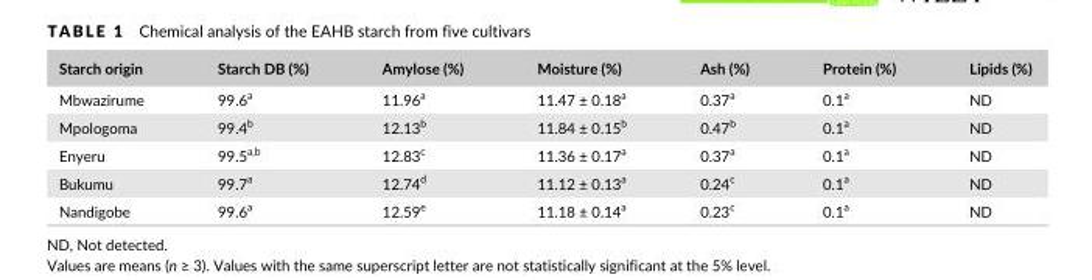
<table><thead><tr><td>Starch origin</td><td>Starch DB (%)</td><td>Amylose (%)</td><td>Moisture (%)</td><td>Ash (%)</td><td>Protein (%)</td><td>Lipids (%)</td></tr></thead><tbody><tr><td>Mbwazirume</td><td>99.6<sup>a</sup></td><td>11.96<sup>a</sup></td><td>11.47 ± 0.18<sup>a</sup></td><td>0.37<sup>a</sup></td><td>0.1<sup>a</sup></td><td>ND</td></tr><tr><td>Mpologoma</td><td>99.4<sup>b</sup></td><td>12.13<sup>b</sup></td><td>11.84 ± 0.15<sup>b</sup></td><td>0.47<sup>b</sup></td><td>0.1<sup>a</sup></td><td>ND</td></tr><tr><td>Enyeru</td><td>99.5<sup>a,b</sup></td><td>12.83<sup>c</sup></td><td>11.36 ± 0.17<sup>a</sup></td><td>0.37<sup>a</sup></td><td>0.1<sup>a</sup></td><td>ND</td></tr><tr><td>Bukumu</td><td>99.7<sup>a</sup></td><td>12.74<sup>d</sup></td><td>11.12 ± 0.13<sup>a</sup></td><td>0.24<sup>c</sup></td><td>0.1<sup>a</sup></td><td>ND</td></tr><tr><td>Nandigobe</td><td>99.6<sup>a</sup></td><td>12.59<sup>e</sup></td><td>11.18 ± 0.14<sup>a</sup></td><td>0.23<sup>c</sup></td><td>0.1<sup>a</sup></td><td>ND</td></tr></tbody></table>